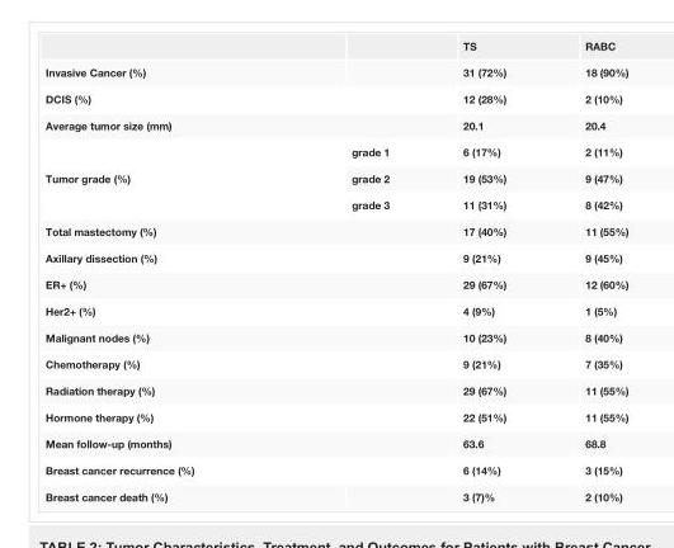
<table><thead><tr><td></td><td></td><td>TS</td><td>RABC</td></tr></thead><tbody><tr><td>Invasive Cancer (%)</td><td></td><td>31 (72%)</td><td>18 (90%)</td></tr><tr><td>DCIS (%)</td><td></td><td>12 (28%)</td><td>2 (10%)</td></tr><tr><td colspan="2">Average tumor size (mm)</td><td>20.1</td><td>20.4</td></tr><tr><td rowspan="3">Tumor grade (%)</td><td>grade 1</td><td>6 (17%)</td><td>2 (11%)</td></tr><tr><td>grade 2</td><td>19 (53%)</td><td>9 (47%)</td></tr><tr><td>grade 3</td><td>11 (31%)</td><td>8 (42%)</td></tr><tr><td colspan="2">Total mastectomy (%)</td><td>17 (40%)</td><td>11 (55%)</td></tr><tr><td colspan="2">Axillary dissection (%)</td><td>9 (21%)</td><td>9 (45%)</td></tr><tr><td colspan="2">ER+ (%)</td><td>29 (67%)</td><td>12 (60%)</td></tr><tr><td colspan="2">Her2+ (%)</td><td>4 (9%)</td><td>1 (5%)</td></tr><tr><td colspan="2">Malignant nodes (%)</td><td>10 (23%)</td><td>8 (40%)</td></tr><tr><td colspan="2">Chemotherapy (%)</td><td>9 (21%)</td><td>7 (35%)</td></tr><tr><td colspan="2">Radiation therapy (%)</td><td>29 (67%)</td><td>11 (55%)</td></tr><tr><td colspan="2">Hormone therapy (%)</td><td>22 (51%)</td><td>11 (55%)</td></tr><tr><td colspan="2">Mean follow-up (months)</td><td>63.6</td><td>68.8</td></tr><tr><td colspan="2">Breast cancer recurrence (%)</td><td>6 (14%)</td><td>3 (15%)</td></tr><tr><td>Breast cancer death (%)</td><td></td><td>3 (7)%</td><td>2 (10%)</td></tr></tbody></table>